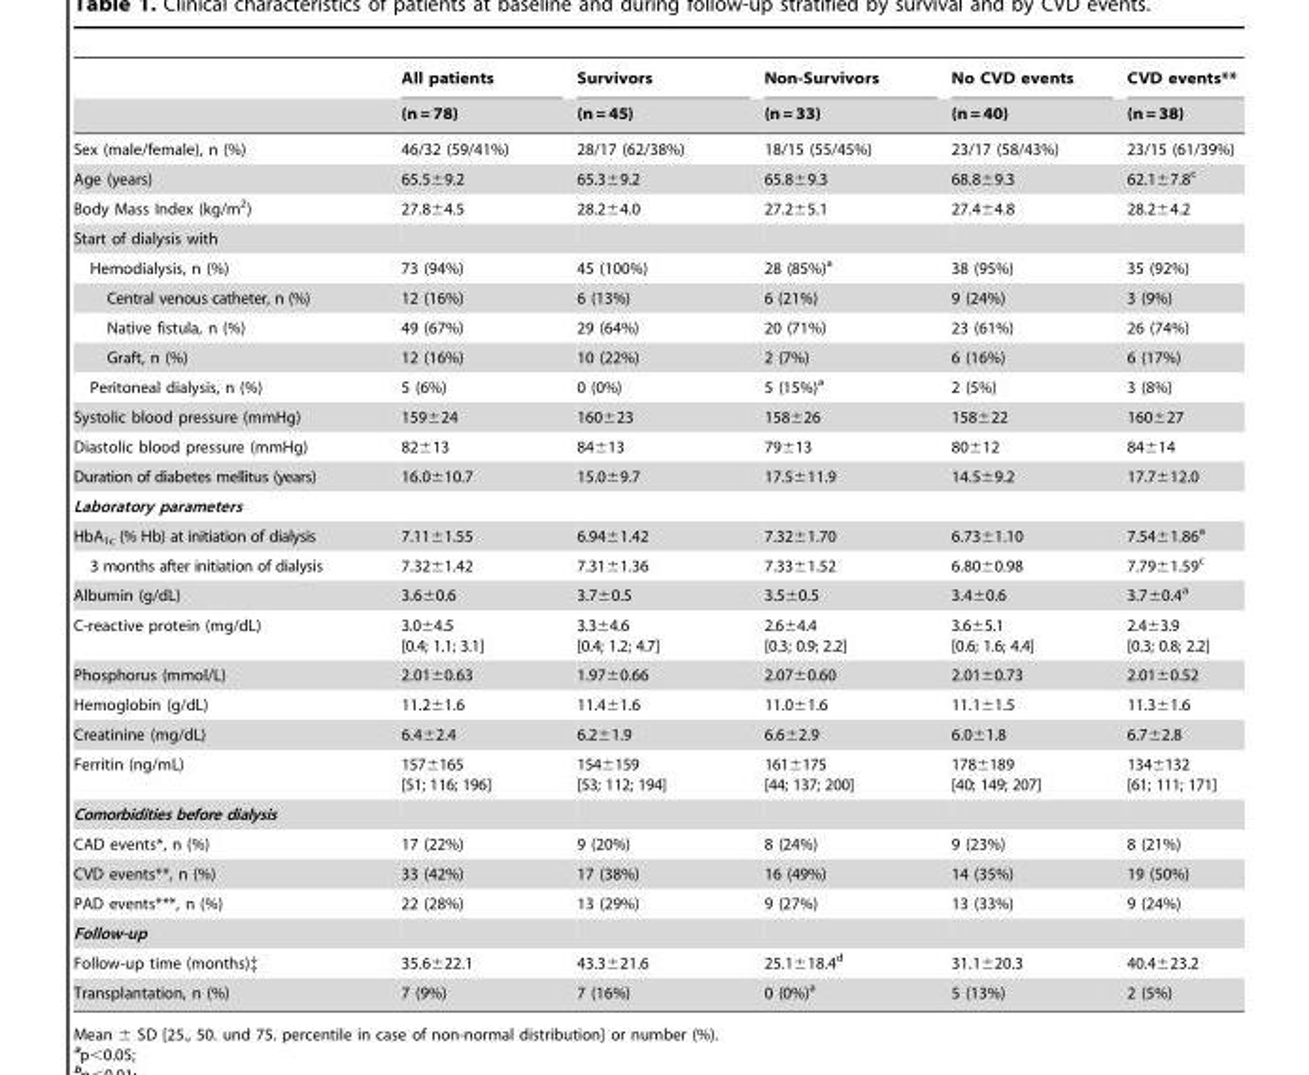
<table><thead><tr><td rowspan="2"></td><td rowspan="2">All patients (n = 78)</td><td rowspan="2">Survivors (n = 45)</td><td rowspan="2">Non-Survivors (n = 33)</td><td rowspan="2">No CVD events (n = 40)</td><td rowspan="2">CVD events** (n = 38)</td></tr><tr></tr></thead><tbody><tr><td>Sex (male/female), n (%)</td><td>46/32 (59/41%)</td><td>28/17 (62/38%)</td><td>18/15 (55/45%)</td><td>23/17 (58/43%)</td><td>23/15 (61/39%)</td></tr><tr><td>Age (years)</td><td>65.5±9.2</td><td>65.3±9.2</td><td>65.8±9.3</td><td>68.8±9.3</td><td>62.1±7.8<sup>c</sup></td></tr><tr><td>Body Mass Index (kg/m<sup>2</sup>)</td><td>27.8±4.5</td><td>28.2±4.0</td><td>27.2±5.1</td><td>27.4±4.8</td><td>28.2±4.2</td></tr><tr><td colspan="6">Start of dialysis with</td></tr><tr><td>Hemodialysis, n (%)</td><td>73 (94%)</td><td>45 (100%)</td><td>28 (85%)<sup>a</sup></td><td>38 (95%)</td><td>35 (92%)</td></tr><tr><td>Central venous catheter, n (%)</td><td>12 (16%)</td><td>6 (13%)</td><td>6 (21%)</td><td>9 (24%)</td><td>3 (9%)</td></tr><tr><td>Native fistula, n (%)</td><td>49 (67%)</td><td>29 (64%)</td><td>20 (71%)</td><td>23 (61%)</td><td>26 (74%)</td></tr><tr><td>Graft, n (%)</td><td>12 (16%)</td><td>10 (22%)</td><td>2 (7%)</td><td>6 (16%)</td><td>6 (17%)</td></tr><tr><td>Peritoneal dialysis, n (%)</td><td>5 (6%)</td><td>0 (0%)</td><td>5 (15%)<sup>a</sup></td><td>2 (5%)</td><td>3 (8%)</td></tr><tr><td>Systolic blood pressure (mmHg)</td><td>159±24</td><td>160±23</td><td>158±26</td><td>158±22</td><td>160±27</td></tr><tr><td>Diastolic blood pressure (mmHg)</td><td>82±13</td><td>84±13</td><td>79±13</td><td>80±12</td><td>84±14</td></tr><tr><td>Duration of diabetes mellitus (years)</td><td>16.0±10.7</td><td>15.0±9.7</td><td>17.5±11.9</td><td>14.5±9.2</td><td>17.7±12.0</td></tr><tr><td colspan="6">Laboratory parameters</td></tr><tr><td>HbA<sub>1c</sub> (% Hb) at initiation of dialysis</td><td>7.11±1.55</td><td>6.94±1.42</td><td>7.32±1.70</td><td>6.73±1.10</td><td>7.54±1.86<sup>a</sup></td></tr><tr><td>3 months after initiation of dialysis</td><td>7.32±1.42</td><td>7.31±1.36</td><td>7.33±1.52</td><td>6.80±0.98</td><td>7.79±1.59<sup>c</sup></td></tr><tr><td>Albumin (g/dL)</td><td>3.6±0.6</td><td>3.7±0.5</td><td>3.5±0.5</td><td>3.4±0.6</td><td>3.7±0.4<sup>a</sup></td></tr><tr><td>C-reactive protein (mg/dL)</td><td>3.0±4.5 [0.4; 1.1; 3.1]</td><td>3.3±4.6 [0.4; 1.2; 4.7]</td><td>2.6±4.4 [0.3; 0.9; 2.2]</td><td>3.6±5.1 [0.6; 1.6; 4.4]</td><td>2.4±3.9 [0.3; 0.8; 2.2]</td></tr><tr><td>Phosphorus (mmol/L)</td><td>2.01±0.63</td><td>1.97±0.66</td><td>2.07±0.60</td><td>2.01±0.73</td><td>2.01±0.52</td></tr><tr><td>Hemoglobin (g/dL)</td><td>11.2±1.6</td><td>11.4±1.6</td><td>11.0±1.6</td><td>11.1±1.5</td><td>11.3±1.6</td></tr><tr><td>Creatinine (mg/dL)</td><td>6.4±2.4</td><td>6.2±1.9</td><td>6.6±2.9</td><td>6.0±1.8</td><td>6.7±2.8</td></tr><tr><td>Ferritin (ng/mL)</td><td>157±165 [51; 116; 196]</td><td>154±159 [53; 112; 194]</td><td>161±175 [44; 137; 200]</td><td>178±189 [40; 149; 207]</td><td>134±132 [61; 111; 171]</td></tr><tr><td colspan="6">Comorbidities before dialysis</td></tr><tr><td>CAD events*, n (%)</td><td>17 (22%)</td><td>9 (20%)</td><td>8 (24%)</td><td>9 (23%)</td><td>8 (21%)</td></tr><tr><td>CVD events**, n (%)</td><td>33 (42%)</td><td>17 (38%)</td><td>16 (49%)</td><td>14 (35%)</td><td>19 (50%)</td></tr><tr><td>PAD events***, n (%)</td><td>22 (28%)</td><td>13 (29%)</td><td>9 (27%)</td><td>13 (33%)</td><td>9 (24%)</td></tr><tr><td colspan="6">Follow-up</td></tr><tr><td>Follow-up time (months)‡</td><td>35.6±22.1</td><td>43.3±21.6</td><td>25.1±18.4<sup>d</sup></td><td>31.1±20.3</td><td>40.4±23.2</td></tr><tr><td>Transplantation, n (%)</td><td>7 (9%)</td><td>7 (16%)</td><td>0 (0%)<sup>a</sup></td><td>5 (13%)</td><td>2 (5%)</td></tr></tbody></table>